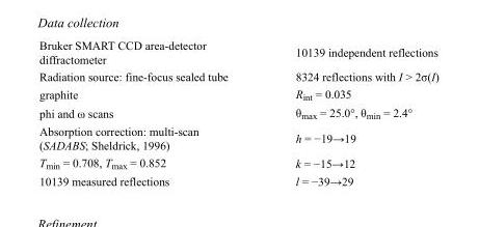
<table><tbody><tr><td>Bruker SMART CCD area-detector diffractometer</td><td>10139 independent reflections</td></tr><tr><td>Radiation source: fine-focus sealed tube</td><td>8324 reflections with I &gt; 2σ(I)</td></tr><tr><td>graphite</td><td>R<sub>int</sub> = 0.035</td></tr><tr><td>phi and ω scans</td><td>θ<sub>max</sub> = 25.0°, θ<sub>min</sub> = 2.4°</td></tr><tr><td>Absorption correction: multi-scan (SADABS; Sheldrick, 1996)</td><td>h = −19→19</td></tr><tr><td>T<sub>min</sub> = 0.708, T<sub>max</sub> = 0.852</td><td>k = −15→12</td></tr><tr><td>10139 measured reflections</td><td>l = −39→29</td></tr></tbody></table>